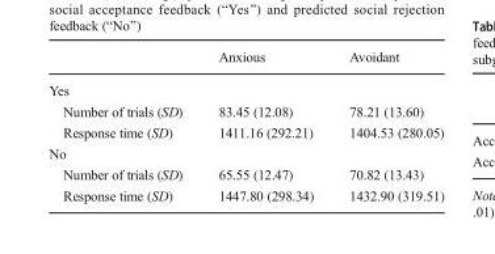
<table><thead><tr><td></td><td>Anxious</td><td>Avoidant</td></tr></thead><tbody><tr><td colspan="3">Yes</td></tr><tr><td>Number of trials (SD)</td><td>83.45 (12.08)</td><td>78.21 (13.60)</td></tr><tr><td>Response time (SD)</td><td>1411.16 (292.21)</td><td>1404.53 (280.05)</td></tr><tr><td colspan="3">No</td></tr><tr><td>Number of trials (SD)</td><td>65.55 (12.47)</td><td>70.82 (13.43)</td></tr><tr><td>Response time (SD)</td><td>1447.80 (298.34)</td><td>1432.90 (319.51)</td></tr></tbody></table>